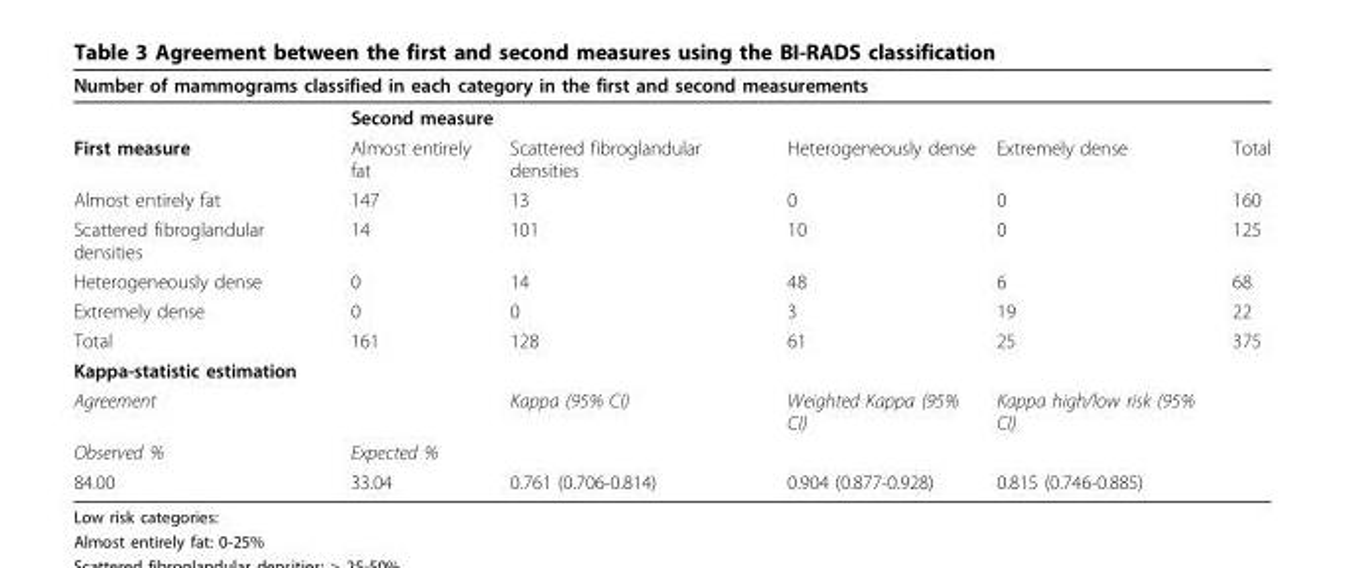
<table><thead><tr><td colspan="6">Number of mammograms classified in each category in the first and second measurements</td></tr><tr><td rowspan="2">First measure</td><td colspan="5">Second measure</td></tr><tr><td>Almost entirely fat</td><td>Scattered fibroglandular densities</td><td>Heterogeneously dense</td><td>Extremely dense</td><td>Total</td></tr></thead><tbody><tr><td>Almost entirely fat</td><td>147</td><td>13</td><td>0</td><td>0</td><td>160</td></tr><tr><td>Scattered fibroglandular densities</td><td>14</td><td>101</td><td>10</td><td>0</td><td>125</td></tr><tr><td>Heterogeneously dense</td><td>0</td><td>14</td><td>48</td><td>6</td><td>68</td></tr><tr><td>Extremely dense</td><td>0</td><td>0</td><td>3</td><td>19</td><td>22</td></tr><tr><td>Total</td><td>161</td><td>128</td><td>61</td><td>25</td><td>375</td></tr><tr><td colspan="6">Kappa-statistic estimation</td></tr><tr><td colspan="2">Agreement</td><td>Kappa (95% CI)</td><td>Weighted Kappa (95% CI)</td><td>Kappa high/low risk (95% CI)</td><td></td></tr><tr><td>Observed %</td><td>Expected %</td><td></td><td></td><td></td><td></td></tr><tr><td>84.00</td><td>33.04</td><td>0.761 (0.706-0.814)</td><td>0.904 (0.877-0.928)</td><td>0.815 (0.746-0.885)</td><td></td></tr></tbody></table>